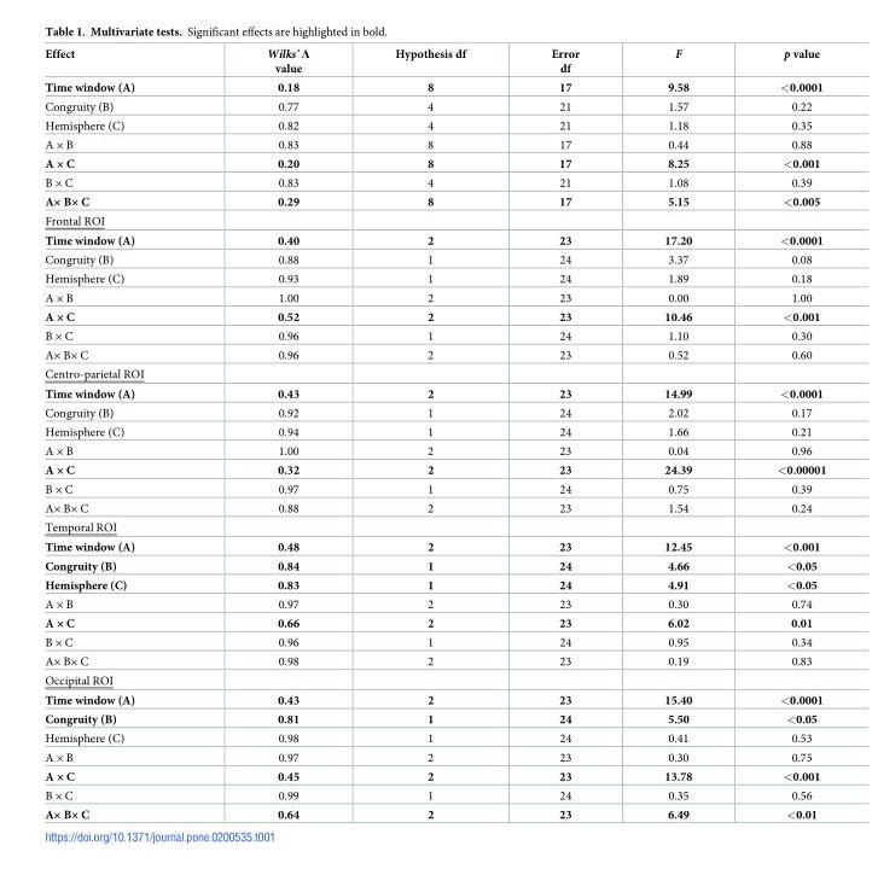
<table><thead><tr><td>Effect</td><td>Wilks&#x27; Λ value</td><td>Hypothesis df</td><td>Error df</td><td>F</td><td>p value</td></tr></thead><tbody><tr><td>Time window (A)</td><td>0.18</td><td>8</td><td>17</td><td>9.58</td><td>&lt;0.0001</td></tr><tr><td>Congruity (B)</td><td>0.77</td><td>4</td><td>21</td><td>1.57</td><td>0.22</td></tr><tr><td>Hemisphere (C)</td><td>0.82</td><td>4</td><td>21</td><td>1.18</td><td>0.35</td></tr><tr><td>A × B</td><td>0.83</td><td>8</td><td>17</td><td>0.44</td><td>0.88</td></tr><tr><td>A × C</td><td>0.20</td><td>8</td><td>17</td><td>8.25</td><td>&lt;0.001</td></tr><tr><td>B × C</td><td>0.83</td><td>4</td><td>21</td><td>1.08</td><td>0.39</td></tr><tr><td>A× B× C</td><td>0.29</td><td>8</td><td>17</td><td>5.15</td><td>&lt;0.005</td></tr><tr><td colspan="6">Frontal ROI</td></tr><tr><td>Time window (A)</td><td>0.40</td><td>2</td><td>23</td><td>17.20</td><td>&lt;0.0001</td></tr><tr><td>Congruity (B)</td><td>0.88</td><td>1</td><td>24</td><td>3.37</td><td>0.08</td></tr><tr><td>Hemisphere (C)</td><td>0.93</td><td>1</td><td>24</td><td>1.89</td><td>0.18</td></tr><tr><td>A × B</td><td>1.00</td><td>2</td><td>23</td><td>0.00</td><td>1.00</td></tr><tr><td>A × C</td><td>0.52</td><td>2</td><td>23</td><td>10.46</td><td>&lt;0.001</td></tr><tr><td>B × C</td><td>0.96</td><td>1</td><td>24</td><td>1.10</td><td>0.30</td></tr><tr><td>A× B× C</td><td>0.96</td><td>2</td><td>23</td><td>0.52</td><td>0.60</td></tr><tr><td colspan="6">Centro-parietal ROI</td></tr><tr><td>Time window (A)</td><td>0.43</td><td>2</td><td>23</td><td>14.99</td><td>&lt;0.0001</td></tr><tr><td>Congruity (B)</td><td>0.92</td><td>1</td><td>24</td><td>2.02</td><td>0.17</td></tr><tr><td>Hemisphere (C)</td><td>0.94</td><td>1</td><td>24</td><td>1.66</td><td>0.21</td></tr><tr><td>A × B</td><td>1.00</td><td>2</td><td>23</td><td>0.04</td><td>0.96</td></tr><tr><td>A × C</td><td>0.32</td><td>2</td><td>23</td><td>24.39</td><td>&lt;0.00001</td></tr><tr><td>B × C</td><td>0.97</td><td>1</td><td>24</td><td>0.75</td><td>0.39</td></tr><tr><td>A× B× C</td><td>0.88</td><td>2</td><td>23</td><td>1.54</td><td>0.24</td></tr><tr><td colspan="6">Temporal ROI</td></tr><tr><td>Time window (A)</td><td>0.48</td><td>2</td><td>23</td><td>12.45</td><td>&lt;0.001</td></tr><tr><td>Congruity (B)</td><td>0.84</td><td>1</td><td>24</td><td>4.66</td><td>&lt;0.05</td></tr><tr><td>Hemisphere (C)</td><td>0.83</td><td>1</td><td>24</td><td>4.91</td><td>&lt;0.05</td></tr><tr><td>A × B</td><td>0.97</td><td>2</td><td>23</td><td>0.30</td><td>0.74</td></tr><tr><td>A × C</td><td>0.66</td><td>2</td><td>23</td><td>6.02</td><td>0.01</td></tr><tr><td>B × C</td><td>0.96</td><td>1</td><td>24</td><td>0.95</td><td>0.34</td></tr><tr><td>A× B× C</td><td>0.98</td><td>2</td><td>23</td><td>0.19</td><td>0.83</td></tr><tr><td colspan="6">Occipital ROI</td></tr><tr><td>Time window (A)</td><td>0.43</td><td>2</td><td>23</td><td>15.40</td><td>&lt;0.0001</td></tr><tr><td>Congruity (B)</td><td>0.81</td><td>1</td><td>24</td><td>5.50</td><td>&lt;0.05</td></tr><tr><td>Hemisphere (C)</td><td>0.98</td><td>1</td><td>24</td><td>0.41</td><td>0.53</td></tr><tr><td>A × B</td><td>0.97</td><td>2</td><td>23</td><td>0.30</td><td>0.75</td></tr><tr><td>A × C</td><td>0.45</td><td>2</td><td>23</td><td>13.78</td><td>&lt;0.001</td></tr><tr><td>B × C</td><td>0.99</td><td>1</td><td>24</td><td>0.35</td><td>0.56</td></tr><tr><td>A× B× C</td><td>0.64</td><td>2</td><td>23</td><td>6.49</td><td>&lt;0.01</td></tr></tbody></table>